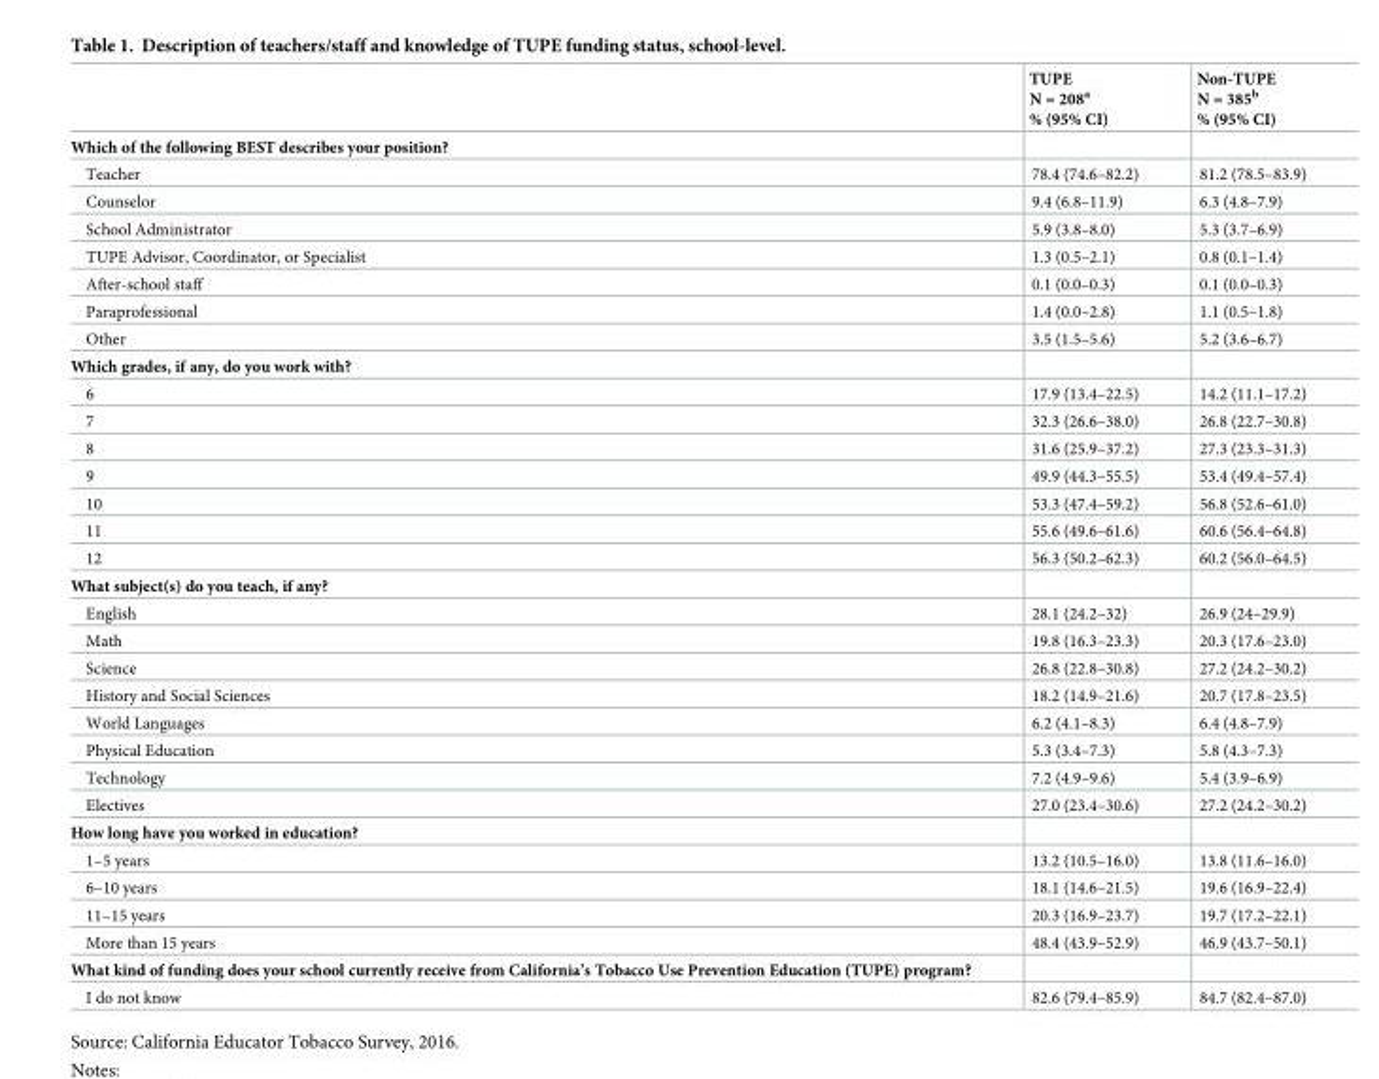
<table><thead><tr><td></td><td>TUPE N = 208<sup>a</sup> % (95% CI)</td><td>Non-TUPE N = 385<sup>b</sup> % (95% CI)</td></tr></thead><tbody><tr><td colspan="3">Which of the following BEST describes your position?</td></tr><tr><td>Teacher</td><td>78.4 (74.6–82.2)</td><td>81.2 (78.5–83.9)</td></tr><tr><td>Counselor</td><td>9.4 (6.8–11.9)</td><td>6.3 (4.8–7.9)</td></tr><tr><td>School Administrator</td><td>5.9 (3.8–8.0)</td><td>5.3 (3.7–6.9)</td></tr><tr><td>TUPE Advisor, Coordinator, or Specialist</td><td>1.3 (0.5–2.1)</td><td>0.8 (0.1–1.4)</td></tr><tr><td>After-school staff</td><td>0.1 (0.0–0.3)</td><td>0.1 (0.0–0.3)</td></tr><tr><td>Paraprofessional</td><td>1.4 (0.0–2.8)</td><td>1.1 (0.5–1.8)</td></tr><tr><td>Other</td><td>3.5 (1.5–5.6)</td><td>5.2 (3.6–6.7)</td></tr><tr><td colspan="3">Which grades, if any, do you work with?</td></tr><tr><td>6</td><td>17.9 (13.4–22.5)</td><td>14.2 (11.1–17.2)</td></tr><tr><td>7</td><td>32.3 (26.6–38.0)</td><td>26.8 (22.7–30.8)</td></tr><tr><td>8</td><td>31.6 (25.9–37.2)</td><td>27.3 (23.3–31.3)</td></tr><tr><td>9</td><td>49.9 (44.3–55.5)</td><td>53.4 (49.4–57.4)</td></tr><tr><td>10</td><td>53.3 (47.4–59.2)</td><td>56.8 (52.6–61.0)</td></tr><tr><td>11</td><td>55.6 (49.6–61.6)</td><td>60.6 (56.4–64.8)</td></tr><tr><td>12</td><td>56.3 (50.2–62.3)</td><td>60.2 (56.0–64.5)</td></tr><tr><td colspan="3">What subject(s) do you teach, if any?</td></tr><tr><td>English</td><td>28.1 (24.2–32)</td><td>26.9 (24–29.9)</td></tr><tr><td>Math</td><td>19.8 (16.3–23.3)</td><td>20.3 (17.6–23.0)</td></tr><tr><td>Science</td><td>26.8 (22.8–30.8)</td><td>27.2 (24.2–30.2)</td></tr><tr><td>History and Social Sciences</td><td>18.2 (14.9–21.6)</td><td>20.7 (17.8–23.5)</td></tr><tr><td>World Languages</td><td>6.2 (4.1–8.3)</td><td>6.4 (4.8–7.9)</td></tr><tr><td>Physical Education</td><td>5.3 (3.4–7.3)</td><td>5.8 (4.3–7.3)</td></tr><tr><td>Technology</td><td>7.2 (4.9–9.6)</td><td>5.4 (3.9–6.9)</td></tr><tr><td>Electives</td><td>27.0 (23.4–30.6)</td><td>27.2 (24.2–30.2)</td></tr><tr><td colspan="3">How long have you worked in education?</td></tr><tr><td>1–5 years</td><td>13.2 (10.5–16.0)</td><td>13.8 (11.6–16.0)</td></tr><tr><td>6–10 years</td><td>18.1 (14.6–21.5)</td><td>19.6 (16.9–22.4)</td></tr><tr><td>11–15 years</td><td>20.3 (16.9–23.7)</td><td>19.7 (17.2–22.1)</td></tr><tr><td>More than 15 years</td><td>48.4 (43.9–52.9)</td><td>46.9 (43.7–50.1)</td></tr><tr><td colspan="3">What kind of funding does your school currently receive from California’s Tobacco Use Prevention Education (TUPE) program?</td></tr><tr><td>I do not know</td><td>82.6 (79.4–85.9)</td><td>84.7 (82.4–87.0)</td></tr></tbody></table>